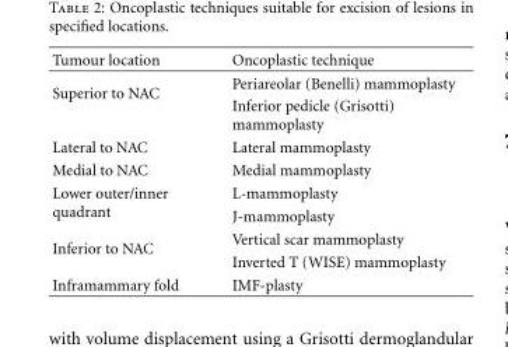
<table><thead><tr><td>Tumour location</td><td>Oncoplastic technique</td></tr></thead><tbody><tr><td rowspan="2">Superior to NAC</td><td>Periareolar (Benelli) mammoplasty</td></tr><tr><td>Inferior pedicle (Grisotti) mammoplasty</td></tr><tr><td>Lateral to NAC</td><td>Lateral mammoplasty</td></tr><tr><td>Medial to NAC</td><td>Medial mammoplasty</td></tr><tr><td rowspan="2">Lower outer/inner quadrant</td><td>L-mammoplasty</td></tr><tr><td>J-mammoplasty</td></tr><tr><td rowspan="2">Inferior to NAC</td><td>Vertical scar mammoplasty</td></tr><tr><td>Inverted T (WISE) mammoplasty</td></tr><tr><td>Inframammary fold</td><td>IMF-plasty</td></tr></tbody></table>